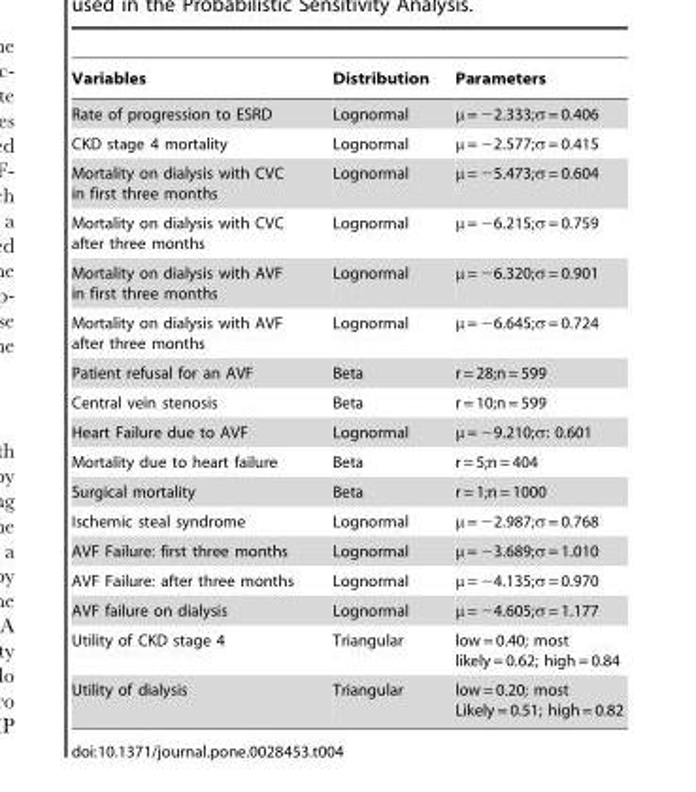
<table><thead><tr><td>Variables</td><td>Distribution</td><td>Parameters</td></tr></thead><tbody><tr><td>Rate of progression to ESRD</td><td>Lognormal</td><td>μ = −2.333;σ = 0.406</td></tr><tr><td>CKD stage 4 mortality</td><td>Lognormal</td><td>μ = −2.577;σ = 0.415</td></tr><tr><td>Mortality on dialysis with CVC in first three months</td><td>Lognormal</td><td>μ = −5.473;σ = 0.604</td></tr><tr><td>Mortality on dialysis with CVC after three months</td><td>Lognormal</td><td>μ = −6.215;σ = 0.759</td></tr><tr><td>Mortality on dialysis with AVF in first three months</td><td>Lognormal</td><td>μ = −6.320;σ = 0.901</td></tr><tr><td>Mortality on dialysis with AVF after three months</td><td>Lognormal</td><td>μ = −6.645;σ = 0.724</td></tr><tr><td>Patient refusal for an AVF</td><td>Beta</td><td>r = 28;n = 599</td></tr><tr><td>Central vein stenosis</td><td>Beta</td><td>r = 10;n = 599</td></tr><tr><td>Heart Failure due to AVF</td><td>Lognormal</td><td>μ = −9.210;σ: 0.601</td></tr><tr><td>Mortality due to heart failure</td><td>Beta</td><td>r = 5;n = 404</td></tr><tr><td>Surgical mortality</td><td>Beta</td><td>r = 1;n = 1000</td></tr><tr><td>Ischemic steal syndrome</td><td>Lognormal</td><td>μ = −2.987;σ = 0.768</td></tr><tr><td>AVF Failure: first three months</td><td>Lognormal</td><td>μ = −3.689;σ = 1.010</td></tr><tr><td>AVF Failure: after three months</td><td>Lognormal</td><td>μ = −4.135;σ = 0.970</td></tr><tr><td>AVF failure on dialysis</td><td>Lognormal</td><td>μ = −4.605;σ = 1.177</td></tr><tr><td>Utility of CKD stage 4</td><td>Triangular</td><td>low = 0.40; most likely = 0.62; high = 0.84</td></tr><tr><td>Utility of dialysis</td><td>Triangular</td><td>low = 0.20; most Likely = 0.51; high = 0.82</td></tr></tbody></table>